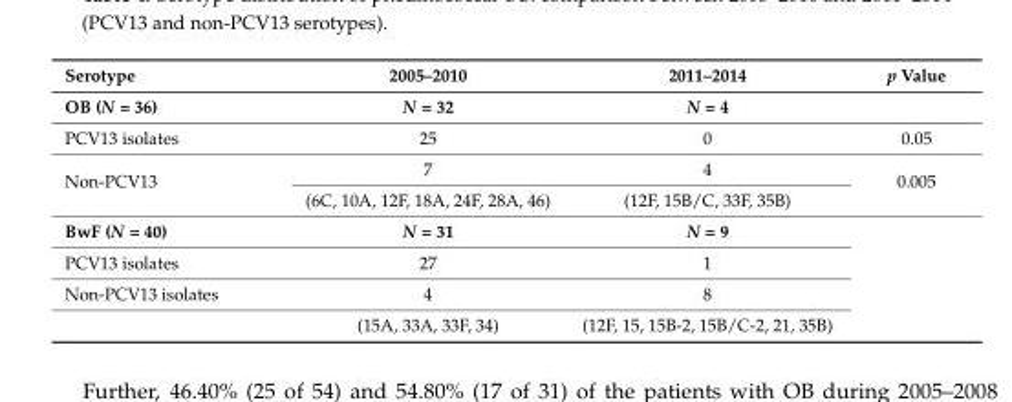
<table><thead><tr><td>Serotype</td><td>2005–2010</td><td>2011–2014</td><td>p Value</td></tr></thead><tbody><tr><td>OB (N = 36)</td><td>N = 32</td><td>N = 4</td><td></td></tr><tr><td>PCV13 isolates</td><td>25</td><td>0</td><td>0.05</td></tr><tr><td rowspan="2">Non-PCV13</td><td>7</td><td>4</td><td rowspan="2">0.005</td></tr><tr><td>(6C, 10A, 12F, 18A, 24F, 28A, 46)</td><td>(12F, 15B/C, 33F, 35B)</td></tr><tr><td>BwF (N = 40)</td><td>N = 31</td><td>N = 9</td><td rowspan="4"></td></tr><tr><td>PCV13 isolates</td><td>27</td><td>1</td></tr><tr><td rowspan="2">Non-PCV13 isolates</td><td>4</td><td>8</td></tr><tr><td>(15A, 33A, 33F, 34)</td><td>(12F, 15, 15B-2, 15B/C-2, 21, 35B)</td></tr></tbody></table>